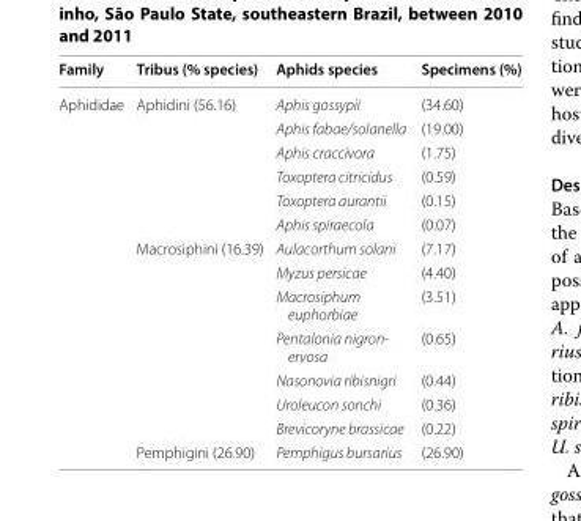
<table><thead><tr><td>Family</td><td>Tribus (% species)</td><td>Aphids species</td><td>Specimens (%)</td></tr></thead><tbody><tr><td rowspan="14">Aphididae</td><td>Aphidini (56.16)</td><td>Aphis gossypii</td><td>(34.60)</td></tr><tr><td></td><td>Aphis fabae/solanella</td><td>(19.00)</td></tr><tr><td></td><td>Aphis craccivora</td><td>(1.75)</td></tr><tr><td></td><td>Toxoptera citricidus</td><td>(0.59)</td></tr><tr><td></td><td>Toxoptera aurantii</td><td>(0.15)</td></tr><tr><td></td><td>Aphis spiraecola</td><td>(0.07)</td></tr><tr><td>Macrosiphini (16.39)</td><td>Aulacorthum solani</td><td>(7.17)</td></tr><tr><td></td><td>Myzus persicae</td><td>(4.40)</td></tr><tr><td></td><td>Macrosiphum euphorbiae</td><td>(3.51)</td></tr><tr><td></td><td>Pentalonia nigron- ervosa</td><td>(0.65)</td></tr><tr><td></td><td>Nasonovia ribisnigri</td><td>(0.44)</td></tr><tr><td></td><td>Uroleucon sonchi</td><td>(0.36)</td></tr><tr><td></td><td>Brevicoryne brassicae</td><td>(0.22)</td></tr><tr><td>Pemphigini (26.90)</td><td>Pemphigus bursarius</td><td>(26.90)</td></tr></tbody></table>